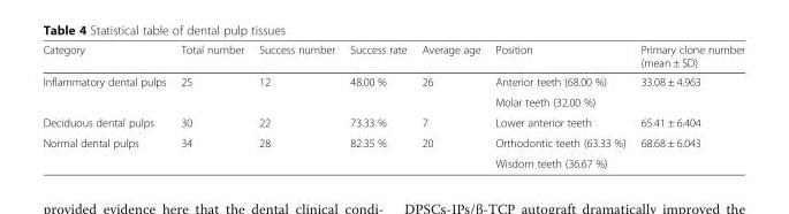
<table><thead><tr><td>Category</td><td>Total number</td><td>Success number</td><td>Success rate</td><td>Average age</td><td>Position</td><td>Primary clone number (mean ± SD)</td></tr></thead><tbody><tr><td rowspan="2">Inflammatory dental pulps</td><td rowspan="2">25</td><td rowspan="2">12</td><td rowspan="2">48.00 %</td><td rowspan="2">26</td><td>Anterior teeth (68.00 %)</td><td rowspan="2">33.08 ± 4.963</td></tr><tr><td>Molar teeth (32.00 %)</td></tr><tr><td>Deciduous dental pulps</td><td>30</td><td>22</td><td>73.33 %</td><td>7</td><td>Lower anterior teeth</td><td>65.41 ± 6.404</td></tr><tr><td rowspan="2">Normal dental pulps</td><td rowspan="2">34</td><td rowspan="2">28</td><td rowspan="2">82.35 %</td><td rowspan="2">20</td><td>Orthodontic teeth (63.33 %)</td><td rowspan="2">68.68 ± 6.043</td></tr><tr><td>Wisdom teeth (36.67 %)</td></tr></tbody></table>